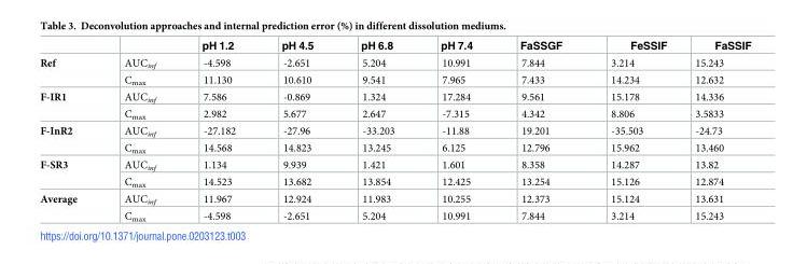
<table><thead><tr><td></td><td></td><td>pH 1.2</td><td>pH 4.5</td><td>pH 6.8</td><td>pH 7.4</td><td>FaSSGF</td><td>FeSSIF</td><td>FaSSIF</td></tr></thead><tbody><tr><td rowspan="2">Ref</td><td>AUC<sub>inf</sub></td><td>-4.598</td><td>-2.651</td><td>5.204</td><td>10.991</td><td>7.844</td><td>3.214</td><td>15.243</td></tr><tr><td>C<sub>max</sub></td><td>11.130</td><td>10.610</td><td>9.541</td><td>7.965</td><td>7.433</td><td>14.234</td><td>12.632</td></tr><tr><td rowspan="2">F-IR1</td><td>AUC<sub>inf</sub></td><td>7.586</td><td>-0.869</td><td>1.324</td><td>17.284</td><td>9.561</td><td>15.178</td><td>14.336</td></tr><tr><td>C<sub>max</sub></td><td>2.982</td><td>5.677</td><td>2.647</td><td>-7.315</td><td>4.342</td><td>8.806</td><td>3.5833</td></tr><tr><td rowspan="2">F-InR2</td><td>AUC<sub>inf</sub></td><td>-27.182</td><td>-27.96</td><td>-33.203</td><td>-11.88</td><td>19.201</td><td>-35.503</td><td>-24.73</td></tr><tr><td>C<sub>max</sub></td><td>14.568</td><td>14.823</td><td>13.245</td><td>6.125</td><td>12.796</td><td>15.962</td><td>13.460</td></tr><tr><td rowspan="2">F-SR3</td><td>AUC<sub>inf</sub></td><td>1.134</td><td>9.939</td><td>1.421</td><td>1.601</td><td>8.358</td><td>14.287</td><td>13.82</td></tr><tr><td>C<sub>max</sub></td><td>14.523</td><td>13.682</td><td>13.854</td><td>12.425</td><td>13.254</td><td>15.126</td><td>12.874</td></tr><tr><td rowspan="2">Average</td><td>AUC<sub>inf</sub></td><td>11.967</td><td>12.924</td><td>11.983</td><td>10.255</td><td>12.373</td><td>15.124</td><td>13.631</td></tr><tr><td>C<sub>max</sub></td><td>-4.598</td><td>-2.651</td><td>5.204</td><td>10.991</td><td>7.844</td><td>3.214</td><td>15.243</td></tr></tbody></table>